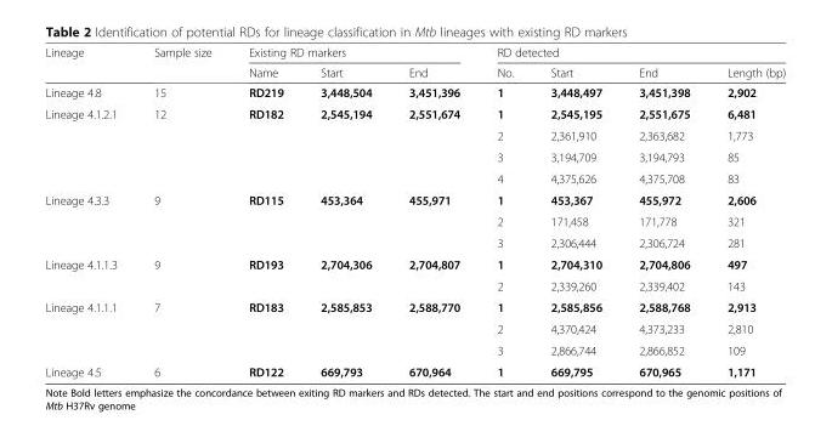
<table><thead><tr><td rowspan="2">Lineage</td><td rowspan="2">Sample size</td><td colspan="3">Existing RD markers</td><td colspan="4">RD detected</td></tr><tr><td>Name</td><td>Start</td><td>End</td><td>No.</td><td>Start</td><td>End</td><td>Length (bp)</td></tr></thead><tbody><tr><td>Lineage 4.8</td><td>15</td><td>RD219</td><td>3,448,504</td><td>3,451,396</td><td>1</td><td>3,448,497</td><td>3,451,398</td><td>2,902</td></tr><tr><td rowspan="4">Lineage 4.1.2.1</td><td rowspan="4">12</td><td>RD182</td><td>2,545,194</td><td>2,551,674</td><td>1</td><td>2,545,195</td><td>2,551,675</td><td>6,481</td></tr><tr><td></td><td></td><td></td><td>2</td><td>2,361,910</td><td>2,363,682</td><td>1,773</td></tr><tr><td></td><td></td><td></td><td>3</td><td>3,194,709</td><td>3,194,793</td><td>85</td></tr><tr><td></td><td></td><td></td><td>4</td><td>4,375,626</td><td>4,375,708</td><td>83</td></tr><tr><td rowspan="3">Lineage 4.3.3</td><td rowspan="3">9</td><td>RD115</td><td>453,364</td><td>455,971</td><td>1</td><td>453,367</td><td>455,972</td><td>2,606</td></tr><tr><td></td><td></td><td></td><td>2</td><td>171,458</td><td>171,778</td><td>321</td></tr><tr><td></td><td></td><td></td><td>3</td><td>2,306,444</td><td>2,306,724</td><td>281</td></tr><tr><td rowspan="2">Lineage 4.1.1.3</td><td rowspan="2">9</td><td>RD193</td><td>2,704,306</td><td>2,704,807</td><td>1</td><td>2,704,310</td><td>2,704,806</td><td>497</td></tr><tr><td></td><td></td><td></td><td>2</td><td>2,339,260</td><td>2,339,402</td><td>143</td></tr><tr><td rowspan="3">Lineage 4.1.1.1</td><td rowspan="3">7</td><td>RD183</td><td>2,585,853</td><td>2,588,770</td><td>1</td><td>2,585,856</td><td>2,588,768</td><td>2,913</td></tr><tr><td></td><td></td><td></td><td>2</td><td>4,370,424</td><td>4,373,233</td><td>2,810</td></tr><tr><td></td><td></td><td></td><td>3</td><td>2,866,744</td><td>2,866,852</td><td>109</td></tr><tr><td>Lineage 4.5</td><td>6</td><td>RD122</td><td>669,793</td><td>670,964</td><td>1</td><td>669,795</td><td>670,965</td><td>1,171</td></tr></tbody></table>